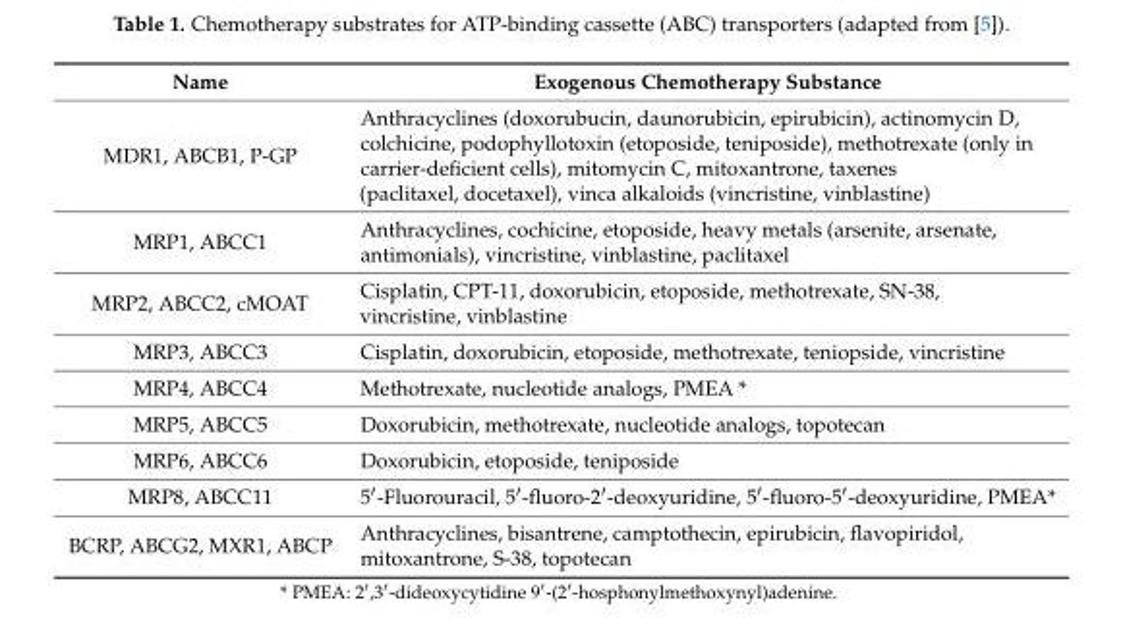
<table><thead><tr><td>Name</td><td>Exogenous Chemotherapy Substance</td></tr></thead><tbody><tr><td>MDR1, ABCB1, P-GP</td><td>Anthracyclines (doxorubucin, daunorubicin, epirubicin), actinomycin D, colchicine, podophyllotoxin (etoposide, teniposide), methotrexate (only in carrier-deficient cells), mitomycin C, mitoxantrone, taxenes (paclitaxel, docetaxel), vinca alkaloids (vincristine, vinblastine)</td></tr><tr><td>MRP1, ABCC1</td><td>Anthracyclines, cochicine, etoposide, heavy metals (arsenite, arsenate, antimonials), vincristine, vinblastine, paclitaxel</td></tr><tr><td>MRP2, ABCC2, cMOAT</td><td>Cisplatin, CPT-11, doxorubicin, etoposide, methotrexate, SN-38, vincristine, vinblastine</td></tr><tr><td>MRP3, ABCC3</td><td>Cisplatin, doxorubicin, etoposide, methotrexate, teniopside, vincristine</td></tr><tr><td>MRP4, ABCC4</td><td>Methotrexate, nucleotide analogs, PMEA *</td></tr><tr><td>MRP5, ABCC5</td><td>Doxorubicin, methotrexate, nucleotide analogs, topotecan</td></tr><tr><td>MRP6, ABCC6</td><td>Doxorubicin, etoposide, teniposide</td></tr><tr><td>MRP8, ABCC11</td><td>5′-Fluorouracil, 5′-fluoro-2′-deoxyuridine, 5′-fluoro-5′-deoxyuridine, PMEA*</td></tr><tr><td>BCRP, ABCG2, MXR1, ABCP</td><td>Anthracyclines, bisantrene, camptothecin, epirubicin, flavopiridol, mitoxantrone, S-38, topotecan</td></tr></tbody></table>